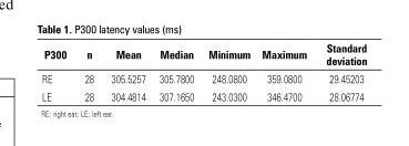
<table><thead><tr><td>P300</td><td>n</td><td>Mean</td><td>Median</td><td>Minimum</td><td>Maximum</td><td>Standard deviation</td></tr></thead><tbody><tr><td>RE</td><td>28</td><td>305.5257</td><td>305.7800</td><td>248.0800</td><td>359.0800</td><td>29.45203</td></tr><tr><td>LE</td><td>28</td><td>304.4814</td><td>307.1650</td><td>243.0300</td><td>346.4700</td><td>28.06774</td></tr></tbody></table>